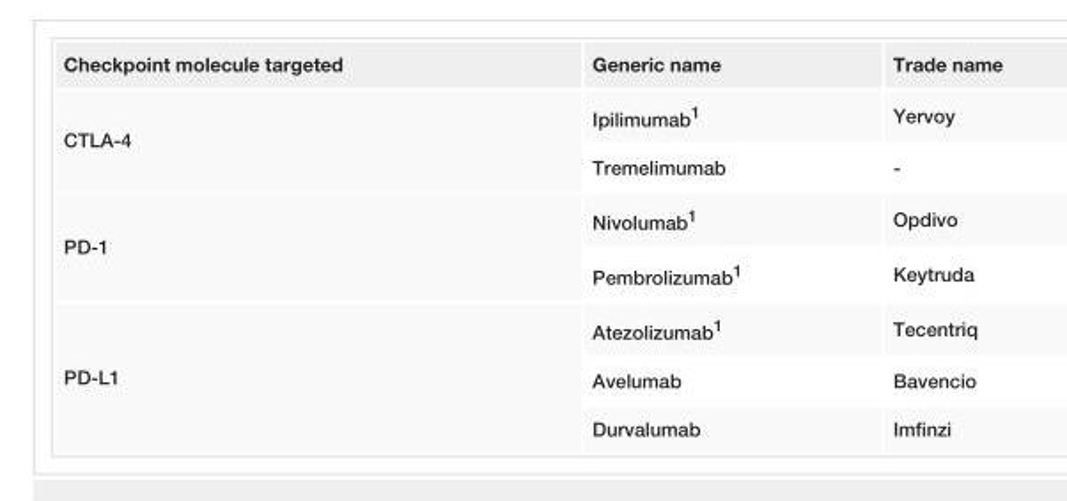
<table><tbody><tr><td>Checkpoint molecule targeted</td><td>Generic name</td><td>Trade name</td></tr><tr><td rowspan="2">CTLA-4</td><td>Ipilimumab<sup>1</sup></td><td>Yervoy</td></tr><tr><td>Tremelimumab</td><td>-</td></tr><tr><td rowspan="2">PD-1</td><td>Nivolumab<sup>1</sup></td><td>Opdivo</td></tr><tr><td>Pembrolizumab<sup>1</sup></td><td>Keytruda</td></tr><tr><td rowspan="3">PD-L1</td><td>Atezolizumab<sup>1</sup></td><td>Tecentriq</td></tr><tr><td>Avelumab</td><td>Bavencio</td></tr><tr><td>Durvalumab</td><td>Imfinzi</td></tr></tbody></table>